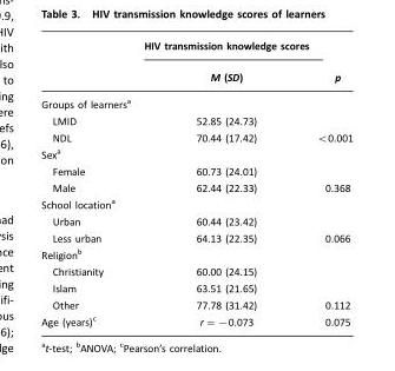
<table><thead><tr><td rowspan="2"></td><td rowspan="2">HIV transmission knowledge scores M (SD)</td><td rowspan="2">p</td></tr><tr></tr></thead><tbody><tr><td colspan="3">Groups of learners<sup>a</sup></td></tr><tr><td>LMID</td><td>52.85 (24.73)</td><td></td></tr><tr><td>NDL</td><td>70.44 (17.42)</td><td>&lt;0.001</td></tr><tr><td colspan="3">Sex<sup>a</sup></td></tr><tr><td>Female</td><td>60.73 (24.01)</td><td></td></tr><tr><td>Male</td><td>62.44 (22.33)</td><td>0.368</td></tr><tr><td colspan="3">School location<sup>a</sup></td></tr><tr><td>Urban</td><td>60.44 (23.42)</td><td></td></tr><tr><td>Less urban</td><td>64.13 (22.35)</td><td>0.066</td></tr><tr><td colspan="3">Religion<sup>b</sup></td></tr><tr><td>Christianity</td><td>60.00 (24.15)</td><td></td></tr><tr><td>Islam</td><td>63.51 (21.65)</td><td></td></tr><tr><td>Other</td><td>77.78 (31.42)</td><td>0.112</td></tr><tr><td>Age (years)<sup>c</sup></td><td>r=−0.073</td><td>0.075</td></tr></tbody></table>